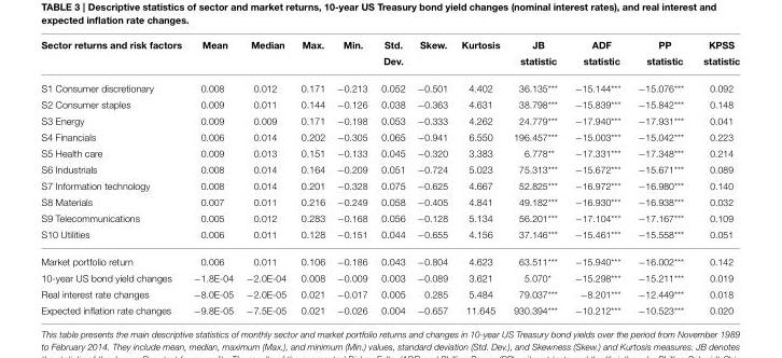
<table><thead><tr><td>Sector returns and risk factors</td><td>Mean</td><td>Median</td><td>Max.</td><td>Min.</td><td>Std. Dev.</td><td>Skew.</td><td>Kurtosis</td><td>JB statistic</td><td>ADF statistic</td><td>PP statistic</td><td>KPSS statistic</td></tr></thead><tbody><tr><td>S1 Consumer discretionary</td><td>0.008</td><td>0.012</td><td>0.171</td><td>−0.213</td><td>0.052</td><td>−0.501</td><td>4.402</td><td>36.135***</td><td>−15.144***</td><td>−15.076***</td><td>0.092</td></tr><tr><td>S2 Consumer staples</td><td>0.009</td><td>0.011</td><td>0.144</td><td>−0.126</td><td>0.038</td><td>−0.363</td><td>4.631</td><td>38.798***</td><td>−15.839***</td><td>−15.842***</td><td>0.148</td></tr><tr><td>S3 Energy</td><td>0.009</td><td>0.009</td><td>0.171</td><td>−0.198</td><td>0.053</td><td>−0.333</td><td>4.262</td><td>24.779***</td><td>−17.940***</td><td>−17.931***</td><td>0.041</td></tr><tr><td>S4 Financials</td><td>0.006</td><td>0.014</td><td>0.202</td><td>−0.305</td><td>0.065</td><td>−0.941</td><td>6.550</td><td>196.457***</td><td>−15.003***</td><td>−15.042***</td><td>0.223</td></tr><tr><td>S5 Health care</td><td>0.009</td><td>0.013</td><td>0.151</td><td>−0.133</td><td>0.045</td><td>−0.320</td><td>3.383</td><td>6.778**</td><td>−17.331***</td><td>−17.348***</td><td>0.214</td></tr><tr><td>S6 Industrials</td><td>0.008</td><td>0.014</td><td>0.164</td><td>−0.209</td><td>0.051</td><td>−0.724</td><td>5.023</td><td>75.313***</td><td>−15.672***</td><td>−15.671***</td><td>0.089</td></tr><tr><td>S7 Information technology</td><td>0.008</td><td>0.014</td><td>0.201</td><td>−0.328</td><td>0.075</td><td>−0.625</td><td>4.667</td><td>52.825***</td><td>−16.972***</td><td>−16.980***</td><td>0.140</td></tr><tr><td>S8 Materials</td><td>0.007</td><td>0.011</td><td>0.216</td><td>−0.249</td><td>0.058</td><td>−0.405</td><td>4.841</td><td>49.182***</td><td>−16.930***</td><td>−16.938***</td><td>0.032</td></tr><tr><td>S9 Telecommunications</td><td>0.005</td><td>0.012</td><td>0.283</td><td>−0.168</td><td>0.056</td><td>−0.128</td><td>5.134</td><td>56.201***</td><td>−17.104***</td><td>−17.167***</td><td>0.109</td></tr><tr><td>S10 Utilities</td><td>0.006</td><td>0.011</td><td>0.128</td><td>−0.151</td><td>0.044</td><td>−0.655</td><td>4.156</td><td>37.146***</td><td>−15.461***</td><td>−15.558***</td><td>0.051</td></tr><tr><td>Market portfolio return</td><td>0.006</td><td>0.011</td><td>0.106</td><td>−0.186</td><td>0.043</td><td>−0.804</td><td>4.623</td><td>63.511***</td><td>−15.940***</td><td>−16.002***</td><td>0.142</td></tr><tr><td>10-year US bond yield changes</td><td>−1.8E-04</td><td>−2.0E-04</td><td>0.008</td><td>−0.009</td><td>0.003</td><td>−0.089</td><td>3.621</td><td>5.070*</td><td>−15.298***</td><td>−15.211***</td><td>0.019</td></tr><tr><td>Real interest rate changes</td><td>−8.0E-05</td><td>−2.0E-05</td><td>0.021</td><td>−0.017</td><td>0.005</td><td>0.285</td><td>5.484</td><td>79.037***</td><td>−8.201***</td><td>−12.449***</td><td>0.018</td></tr><tr><td>Expected inflation rate changes</td><td>−9.8E-05</td><td>−7.5E-05</td><td>0.021</td><td>−0.026</td><td>0.004</td><td>−0.657</td><td>11.645</td><td>930.394***</td><td>−10.212***</td><td>−10.523***</td><td>0.020</td></tr></tbody></table>